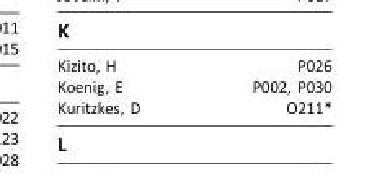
<table><tbody><tr><td>Kizito, H</td><td>P026</td></tr><tr><td>Koenig, E</td><td>P002, P030</td></tr><tr><td>Kuritzkes, D</td><td>O211*</td></tr></tbody></table>